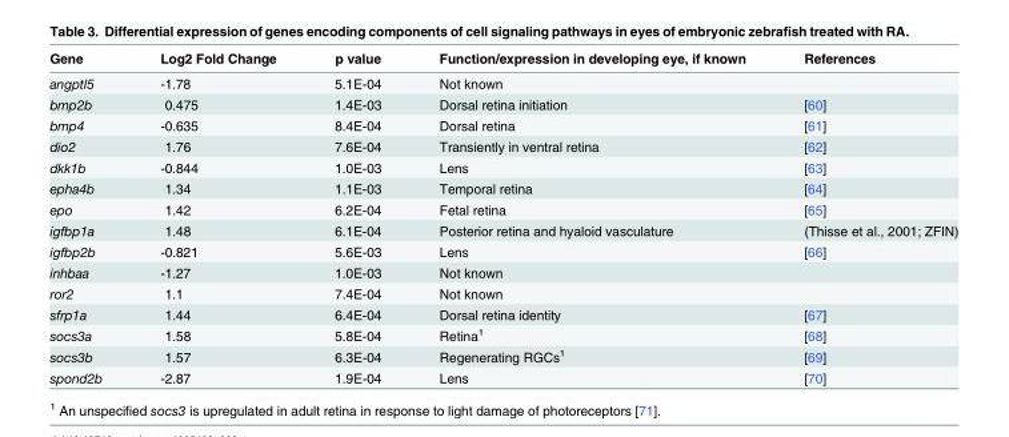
<table><thead><tr><td>Gene</td><td>Log2 Fold Change</td><td>p value</td><td>Function/expression in developing eye, if known</td><td>References</td></tr></thead><tbody><tr><td>angptl5</td><td>-1.78</td><td>5.1E-04</td><td>Not known</td><td></td></tr><tr><td>bmp2b</td><td>0.475</td><td>1.4E-03</td><td>Dorsal retina initiation</td><td>[60]</td></tr><tr><td>bmp4</td><td>-0.635</td><td>8.4E-04</td><td>Dorsal retina</td><td>[61]</td></tr><tr><td>dio2</td><td>1.76</td><td>7.6E-04</td><td>Transiently in ventral retina</td><td>[62]</td></tr><tr><td>dkk1b</td><td>-0.844</td><td>1.0E-03</td><td>Lens</td><td>[63]</td></tr><tr><td>epha4b</td><td>1.34</td><td>1.1E-03</td><td>Temporal retina</td><td>[64]</td></tr><tr><td>epo</td><td>1.42</td><td>6.2E-04</td><td>Fetal retina</td><td>[65]</td></tr><tr><td>igfbp1a</td><td>1.48</td><td>6.1E-04</td><td>Posterior retina and hyaloid vasculature</td><td>(Thisse et al., 2001; ZFIN)</td></tr><tr><td>igfbp2b</td><td>-0.821</td><td>5.6E-03</td><td>Lens</td><td>[66]</td></tr><tr><td>inhbaa</td><td>-1.27</td><td>1.0E-03</td><td>Not known</td><td></td></tr><tr><td>ror2</td><td>1.1</td><td>7.4E-04</td><td>Not known</td><td></td></tr><tr><td>sfrp1a</td><td>1.44</td><td>6.4E-04</td><td>Dorsal retina identity</td><td>[67]</td></tr><tr><td>socs3a</td><td>1.58</td><td>5.8E-04</td><td>Retina<sup>1</sup></td><td>[68]</td></tr><tr><td>socs3b</td><td>1.57</td><td>6.3E-04</td><td>Regenerating RGCs<sup>1</sup></td><td>[69]</td></tr><tr><td>spond2b</td><td>-2.87</td><td>1.9E-04</td><td>Lens</td><td>[70]</td></tr></tbody></table>